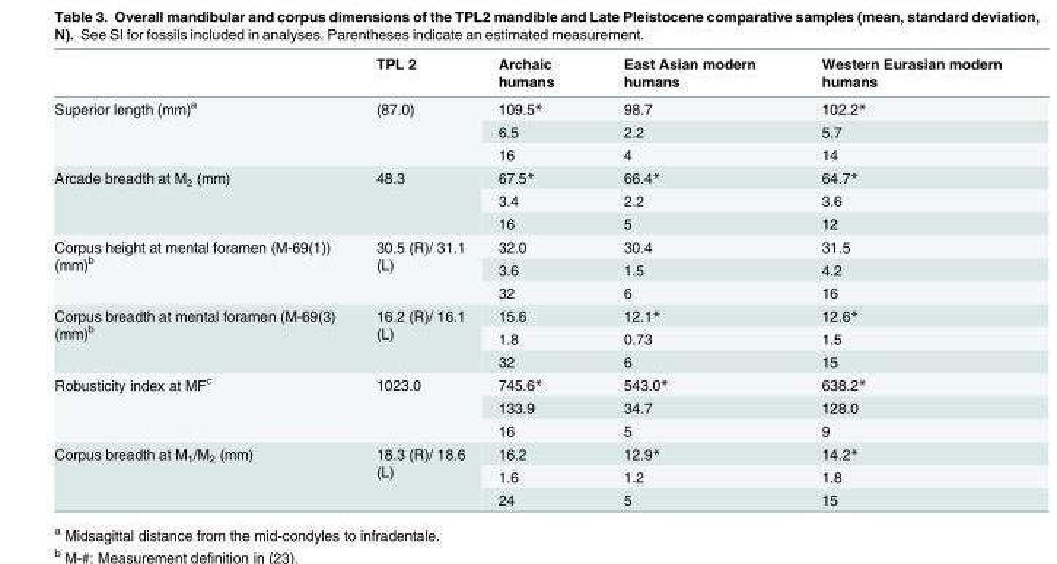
<table><thead><tr><td></td><td>TPL 2</td><td>Archaic humans</td><td>East Asian modern humans</td><td>Western Eurasian modern humans</td></tr></thead><tbody><tr><td rowspan="3">Superior length (mm)<sup>a</sup></td><td rowspan="3">(87.0)</td><td>109.5*</td><td>98.7</td><td>102.2*</td></tr><tr><td>6.5</td><td>2.2</td><td>5.7</td></tr><tr><td>16</td><td>4</td><td>14</td></tr><tr><td rowspan="3">Arcade breadth at M<sub>2</sub> (mm)</td><td rowspan="3">48.3</td><td>67.5*</td><td>66.4*</td><td>64.7*</td></tr><tr><td>3.4</td><td>2.2</td><td>3.6</td></tr><tr><td>16</td><td>5</td><td>12</td></tr><tr><td rowspan="3">Corpus height at mental foramen (M-69(1)) (mm)<sup>b</sup></td><td rowspan="3">30.5 (R)/ 31.1 (L)</td><td>32.0</td><td>30.4</td><td>31.5</td></tr><tr><td>3.6</td><td>1.5</td><td>4.2</td></tr><tr><td>32</td><td>6</td><td>16</td></tr><tr><td rowspan="3">Corpus breadth at mental foramen (M-69(3) (mm)<sup>b</sup></td><td rowspan="3">16.2 (R)/ 16.1 (L)</td><td>15.6</td><td>12.1*</td><td>12.6*</td></tr><tr><td>1.8</td><td>0.73</td><td>1.5</td></tr><tr><td>32</td><td>6</td><td>15</td></tr><tr><td rowspan="3">Robusticity index at MF<sup>c</sup></td><td rowspan="3">1023.0</td><td>745.6*</td><td>543.0*</td><td>638.2*</td></tr><tr><td>133.9</td><td>34.7</td><td>128.0</td></tr><tr><td>16</td><td>5</td><td>9</td></tr><tr><td rowspan="3">Corpus breadth at M<sub>1</sub>/M<sub>2</sub> (mm)</td><td rowspan="3">18.3 (R)/ 18.6 (L)</td><td>16.2</td><td>12.9*</td><td>14.2*</td></tr><tr><td>1.6</td><td>1.2</td><td>1.8</td></tr><tr><td>24</td><td>5</td><td>15</td></tr></tbody></table>